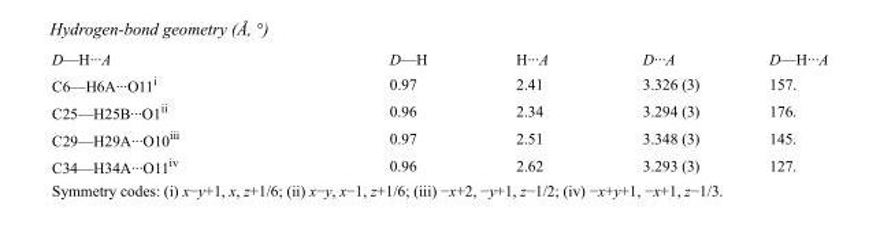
<table><tbody><tr><td>D—H···A</td><td>D—H</td><td>H···A</td><td>D···A</td><td>D—H···A</td></tr><tr><td>C6—H6A···O11<sup>i</sup></td><td>0.97</td><td>2.41</td><td>3.326 (3)</td><td>157.</td></tr><tr><td>C25—H25B···O1<sup>ii</sup></td><td>0.96</td><td>2.34</td><td>3.294 (3)</td><td>176.</td></tr><tr><td>C29—H29A···O10<sup>iii</sup></td><td>0.97</td><td>2.51</td><td>3.348 (3)</td><td>145.</td></tr><tr><td>C34—H34A···O11<sup>iv</sup></td><td>0.96</td><td>2.62</td><td>3.293 (3)</td><td>127.</td></tr></tbody></table>